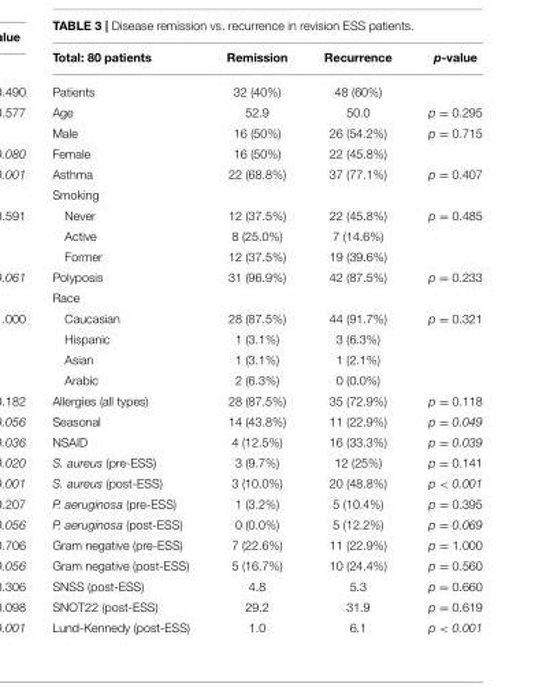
<table><thead><tr><td>Total: 80 patients</td><td>Remission</td><td>Recurrence</td><td>p-value</td></tr></thead><tbody><tr><td>Patients</td><td>32 (40%)</td><td>48 (60%)</td><td></td></tr><tr><td>Age</td><td>52.9</td><td>50.0</td><td>p = 0.295</td></tr><tr><td>Male</td><td>16 (50%)</td><td>26 (54.2%)</td><td>p = 0.715</td></tr><tr><td>Female</td><td>16 (50%)</td><td>22 (45.8%)</td><td></td></tr><tr><td>Asthma</td><td>22 (68.8%)</td><td>37 (77.1%)</td><td>p = 0.407</td></tr><tr><td colspan="4">Smoking</td></tr><tr><td>Never</td><td>12 (37.5%)</td><td>22 (45.8%)</td><td>p = 0.485</td></tr><tr><td>Active</td><td>8 (25.0%)</td><td>7 (14.6%)</td><td></td></tr><tr><td>Former</td><td>12 (37.5%)</td><td>19 (39.6%)</td><td></td></tr><tr><td>Polyposis</td><td>31 (96.9%)</td><td>42 (87.5%)</td><td>p = 0.233</td></tr><tr><td colspan="4">Race</td></tr><tr><td>Caucasian</td><td>28 (87.5%)</td><td>44 (91.7%)</td><td>p = 0.321</td></tr><tr><td>Hispanic</td><td>1 (3.1%)</td><td>3 (6.3%)</td><td></td></tr><tr><td>Asian</td><td>1 (3.1%)</td><td>1 (2.1%)</td><td></td></tr><tr><td>Arabic</td><td>2 (6.3%)</td><td>0 (0.0%)</td><td></td></tr><tr><td>Allergies (all types)</td><td>28 (87.5%)</td><td>35 (72.9%)</td><td>p = 0.118</td></tr><tr><td>Seasonal</td><td>14 (43.8%)</td><td>11 (22.9%)</td><td>p = 0.049</td></tr><tr><td>NSAID</td><td>4 (12.5%)</td><td>16 (33.3%)</td><td>p = 0.039</td></tr><tr><td>S. aureus (pre-ESS)</td><td>3 (9.7%)</td><td>12 (25%)</td><td>p = 0.141</td></tr><tr><td>S. aureus (post-ESS)</td><td>3 (10.0%)</td><td>20 (48.8%)</td><td>p &lt; 0.001</td></tr><tr><td>P. aeruginosa (pre-ESS)</td><td>1 (3.2%)</td><td>5 (10.4%)</td><td>p = 0.395</td></tr><tr><td>P. aeruginosa (post-ESS)</td><td>0 (0.0%)</td><td>5 (12.2%)</td><td>p = 0.069</td></tr><tr><td>Gram negative (pre-ESS)</td><td>7 (22.6%)</td><td>11 (22.9%)</td><td>p = 1.000</td></tr><tr><td>Gram negative (post-ESS)</td><td>5 (16.7%)</td><td>10 (24.4%)</td><td>p = 0.560</td></tr><tr><td>SNSS (post-ESS)</td><td>4.8</td><td>5.3</td><td>p = 0.660</td></tr><tr><td>SNOT22 (post-ESS)</td><td>29.2</td><td>31.9</td><td>p = 0.619</td></tr><tr><td>Lund-Kennedy (post-ESS)</td><td>1.0</td><td>6.1</td><td>p &lt; 0.001</td></tr></tbody></table>